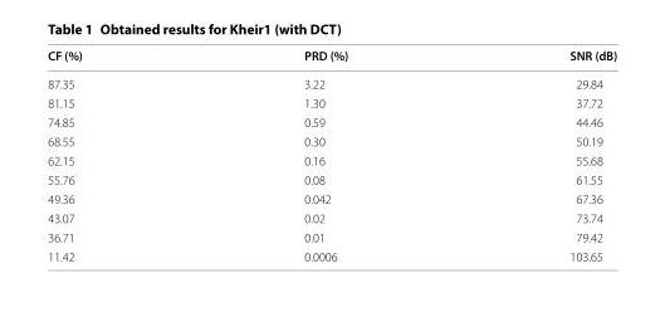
<table><thead><tr><td>CF (%)</td><td>PRD (%)</td><td>SNR (dB)</td></tr></thead><tbody><tr><td>87.35</td><td>3.22</td><td>29.84</td></tr><tr><td>81.15</td><td>1.30</td><td>37.72</td></tr><tr><td>74.85</td><td>0.59</td><td>44.46</td></tr><tr><td>68.55</td><td>0.30</td><td>50.19</td></tr><tr><td>62.15</td><td>0.16</td><td>55.68</td></tr><tr><td>55.76</td><td>0.08</td><td>61.55</td></tr><tr><td>49.36</td><td>0.042</td><td>67.36</td></tr><tr><td>43.07</td><td>0.02</td><td>73.74</td></tr><tr><td>36.71</td><td>0.01</td><td>79.42</td></tr><tr><td>11.42</td><td>0.0006</td><td>103.65</td></tr></tbody></table>